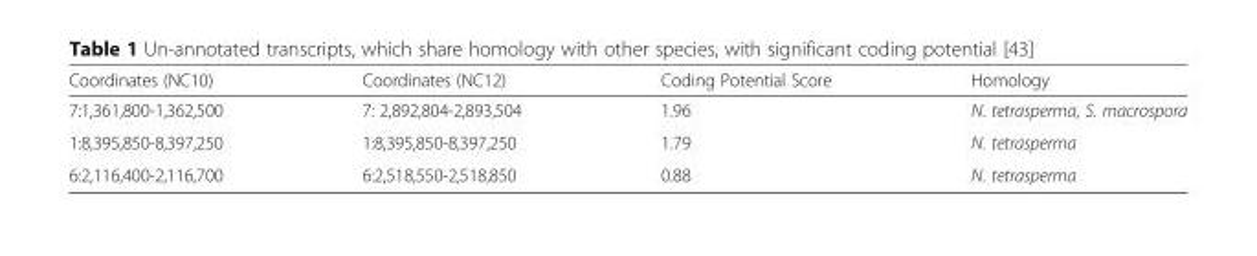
<table><thead><tr><td>Coordinates (NC10)</td><td>Coordinates (NC12)</td><td>Coding Potential Score</td><td>Homology</td></tr></thead><tbody><tr><td>7:1,361,800-1,362,500</td><td>7: 2,892,804-2,893,504</td><td>1.96</td><td>N. tetrasperma, S. macrospora</td></tr><tr><td>1:8,395,850-8,397,250</td><td>1:8,395,850-8,397,250</td><td>1.79</td><td>N. tetrasperma</td></tr><tr><td>6:2,116,400-2,116,700</td><td>6:2,518,550-2,518,850</td><td>0.88</td><td>N. tetrasperma</td></tr></tbody></table>